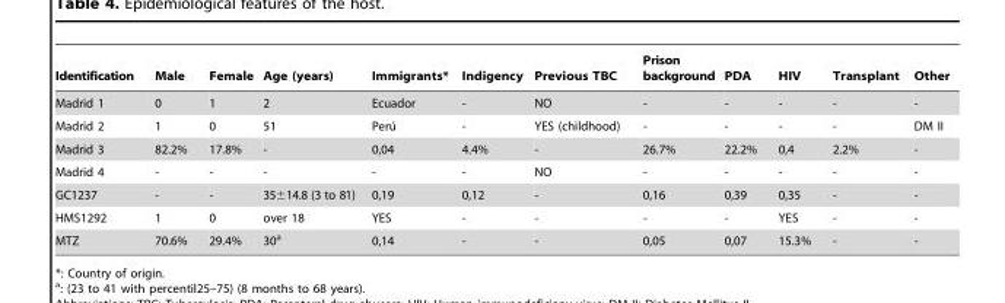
<table><thead><tr><td>Identification</td><td>Male</td><td>Female</td><td>Age (years)</td><td>Immigrants*</td><td>Indigency</td><td>Previous TBC</td><td>Prison background</td><td>PDA</td><td>HIV</td><td>Transplant</td><td>Other</td></tr></thead><tbody><tr><td>Madrid 1</td><td>0</td><td>1</td><td>2</td><td>Ecuador</td><td>-</td><td>NO</td><td>-</td><td>-</td><td>-</td><td>-</td><td>-</td></tr><tr><td>Madrid 2</td><td>1</td><td>0</td><td>51</td><td>Peru´</td><td>-</td><td>YES (childhood)</td><td>-</td><td>-</td><td>-</td><td>-</td><td>DM II</td></tr><tr><td>Madrid 3</td><td>82.2%</td><td>17.8%</td><td>-</td><td>0,04</td><td>4.4%</td><td>-</td><td>26.7%</td><td>22.2%</td><td>0,4</td><td>2.2%</td><td>-</td></tr><tr><td>Madrid 4</td><td>-</td><td>-</td><td>-</td><td>-</td><td>-</td><td>NO</td><td>-</td><td>-</td><td>-</td><td>-</td><td>-</td></tr><tr><td>GC1237</td><td>-</td><td>-</td><td>35±14.8 (3 to 81)</td><td>0,19</td><td>0,12</td><td>-</td><td>0,16</td><td>0,39</td><td>0,35</td><td>-</td><td>-</td></tr><tr><td>HMS1292</td><td>1</td><td>0</td><td>over 18</td><td>YES</td><td>-</td><td>-</td><td>-</td><td>-</td><td>YES</td><td>-</td><td>-</td></tr><tr><td>MTZ</td><td>70.6%</td><td>29.4%</td><td>30<sup>a</sup></td><td>0,14</td><td>-</td><td>-</td><td>0,05</td><td>0,07</td><td>15.3%</td><td>-</td><td>-</td></tr></tbody></table>